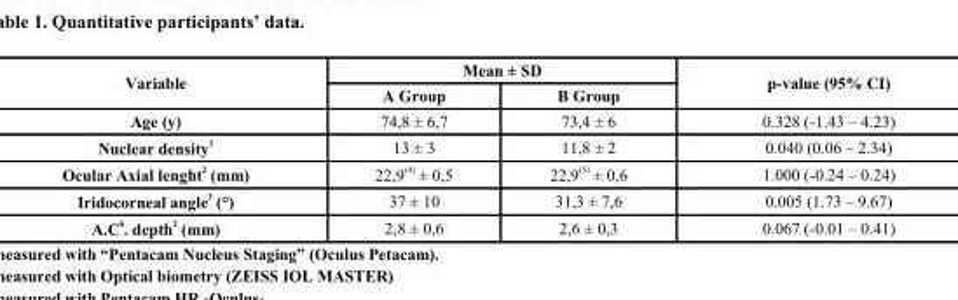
<table><thead><tr><td rowspan="2">Variable</td><td colspan="2">Mean ± SD</td><td rowspan="2">p-value (95% CI)</td></tr><tr><td>A Group</td><td>B Group</td></tr></thead><tbody><tr><td>Age (y)</td><td>74,8 ± 6,7</td><td>73,4 ± 6</td><td>0.328 (-1.43 – 4.23)</td></tr><tr><td>Nuclear density <sup>1</sup></td><td>13 ± 3</td><td>11,8 ± 2</td><td>0.040 (0.06 – 2.34)</td></tr><tr><td>Ocular Axial lenght <sup>2</sup> (mm)</td><td>22,9 <sup>(4)</sup> ± 0,5</td><td>22,9 <sup>(5)</sup> ± 0,6</td><td>1.000 (-0.24 – 0.24)</td></tr><tr><td>Iridocorneal angle <sup>3</sup> (°)</td><td>37 ± 10</td><td>31,3 ± 7,6</td><td>0.005 (1.73 – 9.67)</td></tr><tr><td>A.C <sup>6</sup>. depth <sup>2</sup> (mm)</td><td>2,8 ± 0,6</td><td>2,6 ± 0,3</td><td>0.067 (-0.01 – 0.41)</td></tr></tbody></table>